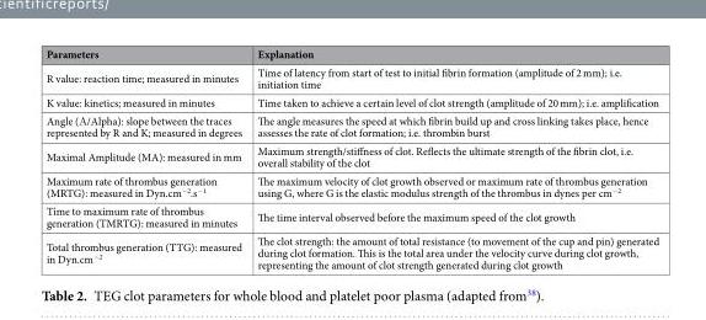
<table><thead><tr><td>Parameters</td><td>Explanation</td></tr></thead><tbody><tr><td>R value: reaction time; measured in minutes</td><td>Time of latency from start of test to initial fibrin formation (amplitude of 2 mm); i.e. initiation time</td></tr><tr><td>K value: kinetics; measured in minutes</td><td>Time taken to achieve a certain level of clot strength (amplitude of 20 mm); i.e. amplification</td></tr><tr><td>Angle (Α/Alpha): slope between the traces represented by R and K; measured in degrees</td><td>The angle measures the speed at which fibrin build up and cross linking takes place, hence assesses the rate of clot formation; i.e. thrombin burst</td></tr><tr><td>Maximal Amplitude (MA): measured in mm</td><td>Maximum strength/stiffness of clot. Reflects the ultimate strength of the fibrin clot, i.e. overall stability of the clot</td></tr><tr><td>Maximum rate of thrombus generation (MRTG): measured in Dyn.cm<sup>−2</sup>.s<sup>−1</sup></td><td>The maximum velocity of clot growth observed or maximum rate of thrombus generation using G, where G is the elastic modulus strength of the thrombus in dynes per cm<sup>−2</sup></td></tr><tr><td>Time to maximum rate of thrombus generation (TMRTG): measured in minutes</td><td>The time interval observed before the maximum speed of the clot growth</td></tr><tr><td>Total thrombus generation (TTG): measured in Dyn.cm<sup>−2</sup></td><td>The clot strength: the amount of total resistance (to movement of the cup and pin) generated during clot formation. This is the total area under the velocity curve during clot growth, representing the amount of clot strength generated during clot growth</td></tr></tbody></table>